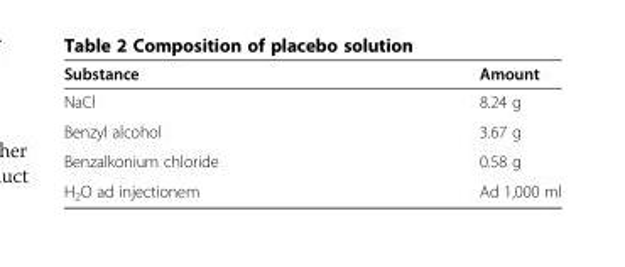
<table><thead><tr><td>Substance</td><td>Amount</td></tr></thead><tbody><tr><td>NaCl</td><td>8.24 g</td></tr><tr><td>Benzyl alcohol</td><td>3.67 g</td></tr><tr><td>Benzalkonium chloride</td><td>0.58 g</td></tr><tr><td>H<sub>2</sub>O ad injectionem</td><td>Ad 1,000 ml</td></tr></tbody></table>